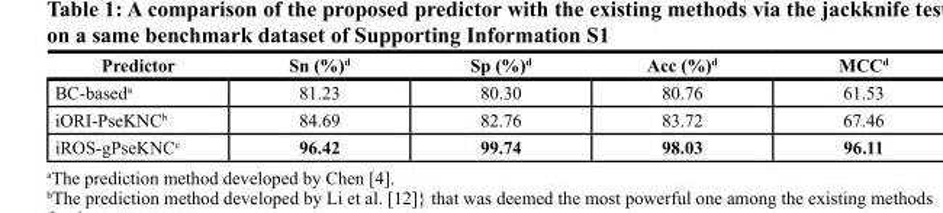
<table><thead><tr><td>Predictor</td><td>sn (%)<sup>d</sup></td><td>sp (%)<sup>d</sup></td><td>Acc (%)<sup>d</sup></td><td>MCC<sup>d</sup></td></tr></thead><tbody><tr><td>BC-based<sup>a</sup></td><td>81.23</td><td>80.30</td><td>80.76</td><td>61.53</td></tr><tr><td>iORI-PseKNC<sup>b</sup></td><td>84.69</td><td>82.76</td><td>83.72</td><td>67.46</td></tr><tr><td>iROS-gPseKNC<sup>c</sup></td><td>96.42</td><td>99.74</td><td>98.03</td><td>96.11</td></tr></tbody></table>